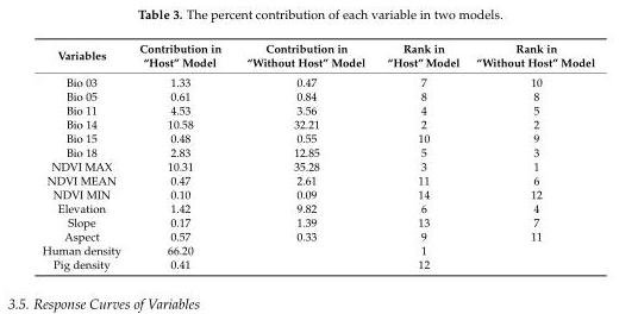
<table><thead><tr><td>Variables</td><td>Contribution in “Host” Model</td><td>Contribution in “Without Host” Model</td><td>Rank in “Host” Model</td><td>Rank in “Without Host” Model</td></tr></thead><tbody><tr><td>Bio 03</td><td>1.33</td><td>0.47</td><td>7</td><td>10</td></tr><tr><td>Bio 05</td><td>0.61</td><td>0.84</td><td>8</td><td>8</td></tr><tr><td>Bio 11</td><td>4.53</td><td>3.56</td><td>4</td><td>5</td></tr><tr><td>Bio 14</td><td>10.58</td><td>32.21</td><td>2</td><td>2</td></tr><tr><td>Bio 15</td><td>0.48</td><td>0.55</td><td>10</td><td>9</td></tr><tr><td>Bio 18</td><td>2.83</td><td>12.85</td><td>5</td><td>3</td></tr><tr><td>NDVI MAX</td><td>10.31</td><td>35.28</td><td>3</td><td>1</td></tr><tr><td>NDVI MEAN</td><td>0.47</td><td>2.61</td><td>11</td><td>6</td></tr><tr><td>NDVI MIN</td><td>0.10</td><td>0.09</td><td>14</td><td>12</td></tr><tr><td>Elevation</td><td>1.42</td><td>9.82</td><td>6</td><td>4</td></tr><tr><td>Slope</td><td>0.17</td><td>1.39</td><td>13</td><td>7</td></tr><tr><td>Aspect</td><td>0.57</td><td>0.33</td><td>9</td><td>11</td></tr><tr><td>Human density</td><td>66.20</td><td></td><td>1</td><td></td></tr><tr><td>Pig density</td><td>0.41</td><td></td><td>12</td><td></td></tr></tbody></table>